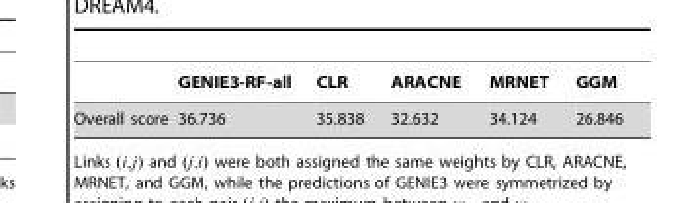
<table><thead><tr><td></td><td>GENIE3-RF-all</td><td>CLR</td><td>ARACNE</td><td>MRNET</td><td>GGM</td></tr></thead><tbody><tr><td>Overall score</td><td>36.736</td><td>35.838</td><td>32.632</td><td>34.124</td><td>26.846</td></tr></tbody></table>